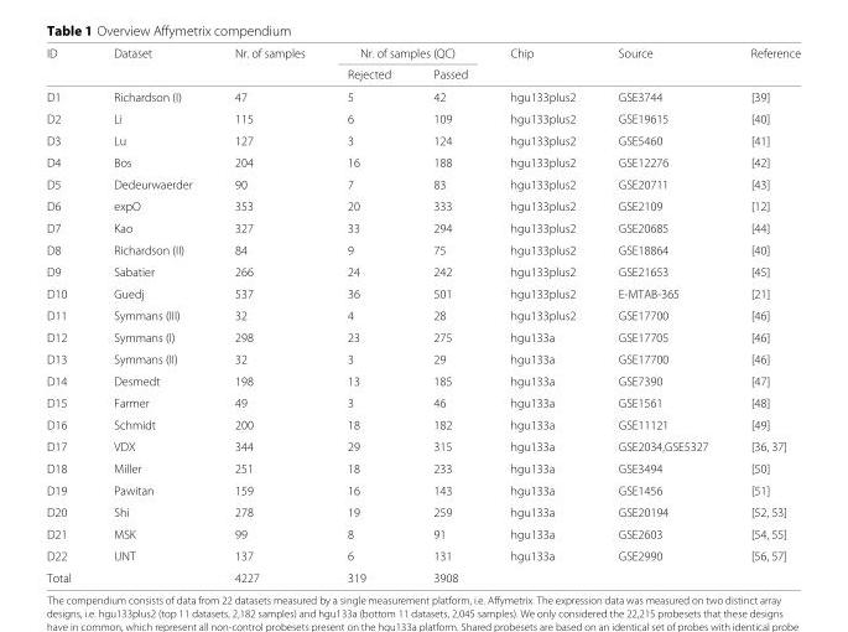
<table><thead><tr><td rowspan="2">ID</td><td rowspan="2">Dataset</td><td rowspan="2">Nr. of samples</td><td colspan="2">Nr. of samples (QC)</td><td rowspan="2">Chip</td><td rowspan="2">Source</td><td rowspan="2">Reference</td></tr><tr><td>Rejected</td><td>Passed</td></tr></thead><tbody><tr><td>D1</td><td>Richardson (I)</td><td>47</td><td>5</td><td>42</td><td>hgu133plus2</td><td>GSE3744</td><td>[39]</td></tr><tr><td>D2</td><td>Li</td><td>115</td><td>6</td><td>109</td><td>hgu133plus2</td><td>GSE19615</td><td>[40]</td></tr><tr><td>D3</td><td>Lu</td><td>127</td><td>3</td><td>124</td><td>hgu133plus2</td><td>GSE5460</td><td>[41]</td></tr><tr><td>D4</td><td>Bos</td><td>204</td><td>16</td><td>188</td><td>hgu133plus2</td><td>GSE12276</td><td>[42]</td></tr><tr><td>D5</td><td>Dedeurwaerder</td><td>90</td><td>7</td><td>83</td><td>hgu133plus2</td><td>GSE20711</td><td>[43]</td></tr><tr><td>D6</td><td>expO</td><td>353</td><td>20</td><td>333</td><td>hgu133plus2</td><td>GSE2109</td><td>[12]</td></tr><tr><td>D7</td><td>Kao</td><td>327</td><td>33</td><td>294</td><td>hgu133plus2</td><td>GSE20685</td><td>[44]</td></tr><tr><td>D8</td><td>Richardson (II)</td><td>84</td><td>9</td><td>75</td><td>hgu133plus2</td><td>GSE18864</td><td>[40]</td></tr><tr><td>D9</td><td>Sabatier</td><td>266</td><td>24</td><td>242</td><td>hgu133plus2</td><td>GSE21653</td><td>[45]</td></tr><tr><td>D10</td><td>Guedj</td><td>537</td><td>36</td><td>501</td><td>hgu133plus2</td><td>E-MTAB-365</td><td>[21]</td></tr><tr><td>D11</td><td>Symmans (III)</td><td>32</td><td>4</td><td>28</td><td>hgu133plus2</td><td>GSE17700</td><td>[46]</td></tr><tr><td>D12</td><td>Symmans (I)</td><td>298</td><td>23</td><td>275</td><td>hgu133a</td><td>GSE17705</td><td>[46]</td></tr><tr><td>D13</td><td>Symmans (II)</td><td>32</td><td>3</td><td>29</td><td>hgu133a</td><td>GSE17700</td><td>[46]</td></tr><tr><td>D14</td><td>Desmedt</td><td>198</td><td>13</td><td>185</td><td>hgu133a</td><td>GSE7390</td><td>[47]</td></tr><tr><td>D15</td><td>Farmer</td><td>49</td><td>3</td><td>46</td><td>hgu133a</td><td>GSE1561</td><td>[48]</td></tr><tr><td>D16</td><td>Schmidt</td><td>200</td><td>18</td><td>182</td><td>hgu133a</td><td>GSE11121</td><td>[49]</td></tr><tr><td>D17</td><td>VDX</td><td>344</td><td>29</td><td>315</td><td>hgu133a</td><td>GSE2034,GSE5327</td><td>[36, 37]</td></tr><tr><td>D18</td><td>Miller</td><td>251</td><td>18</td><td>233</td><td>hgu133a</td><td>GSE3494</td><td>[50]</td></tr><tr><td>D19</td><td>Pawitan</td><td>159</td><td>16</td><td>143</td><td>hgu133a</td><td>GSE1456</td><td>[51]</td></tr><tr><td>D20</td><td>Shi</td><td>278</td><td>19</td><td>259</td><td>hgu133a</td><td>GSE20194</td><td>[52, 53]</td></tr><tr><td>D21</td><td>MSK</td><td>99</td><td>8</td><td>91</td><td>hgu133a</td><td>GSE2603</td><td>[54, 55]</td></tr><tr><td>D22</td><td>UNT</td><td>137</td><td>6</td><td>131</td><td>hgu133a</td><td>GSE2990</td><td>[56, 57]</td></tr><tr><td>Total</td><td></td><td>4227</td><td>319</td><td>3908</td><td></td><td></td><td></td></tr></tbody></table>